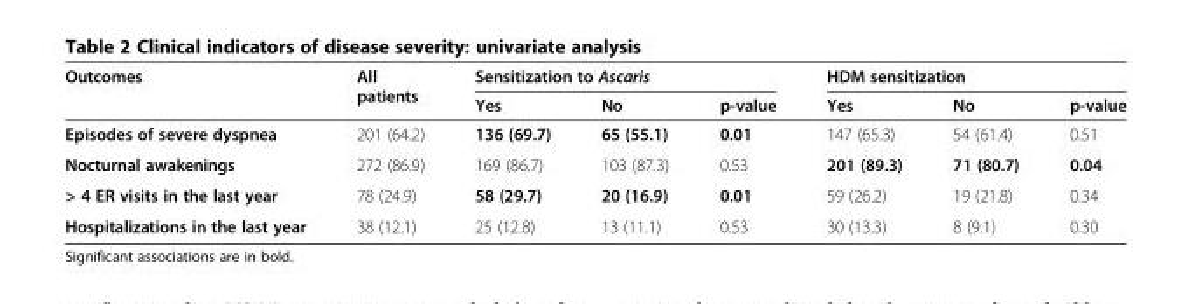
<table><thead><tr><td rowspan="2">Outcomes</td><td rowspan="2">All patients</td><td colspan="3">Sensitization to Ascaris</td><td colspan="3">HDM sensitization</td></tr><tr><td>Yes</td><td>No</td><td>p-value</td><td>Yes</td><td>No</td><td>p-value</td></tr></thead><tbody><tr><td>Episodes of severe dyspnea</td><td>201 (64.2)</td><td>136 (69.7)</td><td>65 (55.1)</td><td>0.01</td><td>147 (65.3)</td><td>54 (61.4)</td><td>0.51</td></tr><tr><td>Nocturnal awakenings</td><td>272 (86.9)</td><td>169 (86.7)</td><td>103 (87.3)</td><td>0.53</td><td>201 (89.3)</td><td>71 (80.7)</td><td>0.04</td></tr><tr><td>&gt; 4 ER visits in the last year</td><td>78 (24.9)</td><td>58 (29.7)</td><td>20 (16.9)</td><td>0.01</td><td>59 (26.2)</td><td>19 (21.8)</td><td>0.34</td></tr><tr><td>Hospitalizations in the last year</td><td>38 (12.1)</td><td>25 (12.8)</td><td>13 (11.1)</td><td>0.53</td><td>30 (13.3)</td><td>8 (9.1)</td><td>0.30</td></tr></tbody></table>